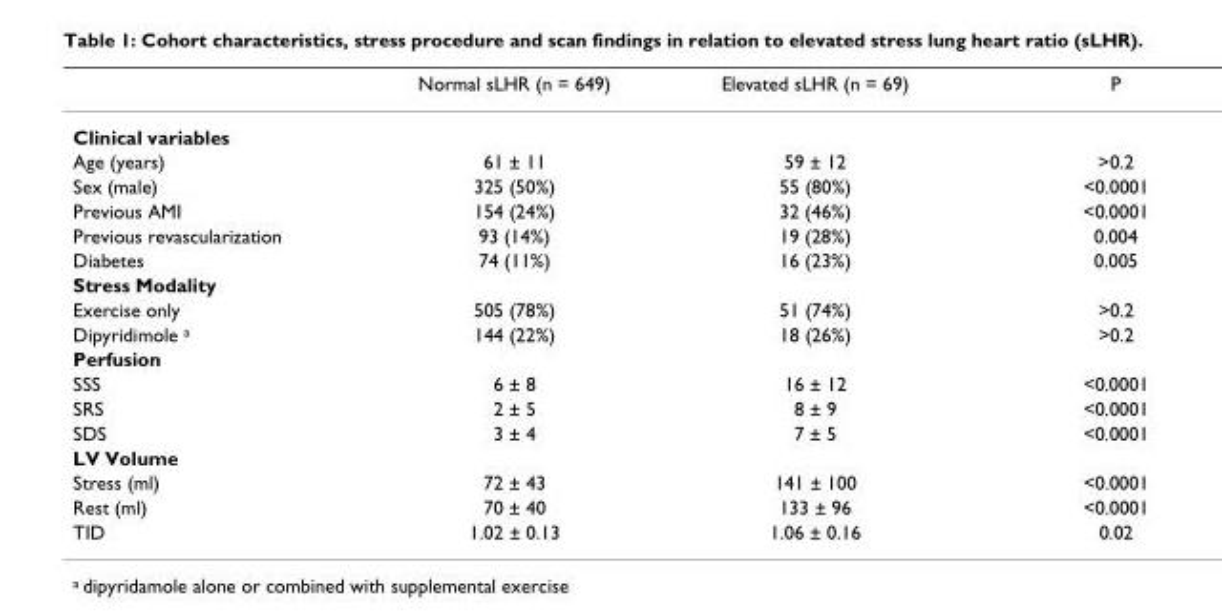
<table><thead><tr><td></td><td>Normal sLHR (n = 649)</td><td>Elevated sLHR (n = 69)</td><td>P</td></tr></thead><tbody><tr><td colspan="4">Clinical variables</td></tr><tr><td>Age (years)</td><td>61 ± 11</td><td>59 ± 12</td><td>&gt;0.2</td></tr><tr><td>Sex (male)</td><td>325 (50%)</td><td>55 (80%)</td><td>&lt;0.0001</td></tr><tr><td>Previous AMI</td><td>154 (24%)</td><td>32 (46%)</td><td>&lt;0.0001</td></tr><tr><td>Previous revascularization</td><td>93 (14%)</td><td>19 (28%)</td><td>0.004</td></tr><tr><td>Diabetes</td><td>74 (11%)</td><td>16 (23%)</td><td>0.005</td></tr><tr><td colspan="4">Stress Modality</td></tr><tr><td>Exercise only</td><td>505 (78%)</td><td>51 (74%)</td><td>&gt;0.2</td></tr><tr><td>Dipyridimole <sup>a</sup></td><td>144 (22%)</td><td>18 (26%)</td><td>&gt;0.2</td></tr><tr><td colspan="4">Perfusion</td></tr><tr><td>SSS</td><td>6 ± 8</td><td>16 ± 12</td><td>&lt;0.0001</td></tr><tr><td>SRS</td><td>2 ± 5</td><td>8 ± 9</td><td>&lt;0.0001</td></tr><tr><td>SDS</td><td>3 ± 4</td><td>7 ± 5</td><td>&lt;0.0001</td></tr><tr><td colspan="4">LV Volume</td></tr><tr><td>Stress (ml)</td><td>72 ± 43</td><td>141 ± 100</td><td>&lt;0.0001</td></tr><tr><td>Rest (ml)</td><td>70 ± 40</td><td>133 ± 96</td><td>&lt;0.0001</td></tr><tr><td>TID</td><td>1.02 ± 0.13</td><td>1.06 ± 0.16</td><td>0.02</td></tr></tbody></table>